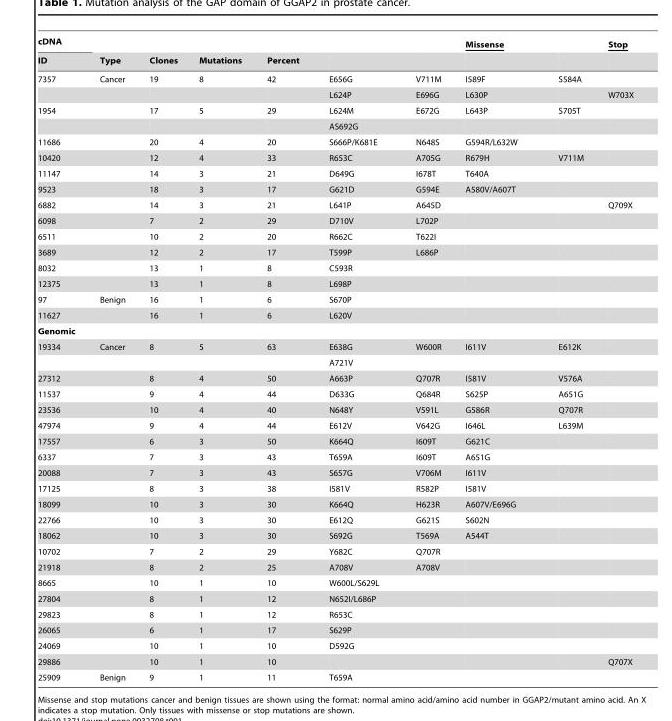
<table><thead><tr><td rowspan="2">cDNA ID</td><td rowspan="2">Type</td><td rowspan="2">Clones</td><td rowspan="2">Mutations</td><td rowspan="2">Percent</td><td rowspan="2"></td><td rowspan="2"></td><td rowspan="2">Missense</td><td rowspan="2"></td><td rowspan="2">Stop</td></tr><tr></tr></thead><tbody><tr><td rowspan="2">7357</td><td>Cancer</td><td>19</td><td>8</td><td>42</td><td>E656G</td><td>V711M</td><td>I589F</td><td>S584A</td><td></td></tr><tr><td></td><td></td><td></td><td></td><td>L624P</td><td>E696G</td><td>L630P</td><td></td><td>W703X</td></tr><tr><td rowspan="2">1954</td><td></td><td>17</td><td>5</td><td>29</td><td>L624M</td><td>E672G</td><td>L643P</td><td>S705T</td><td></td></tr><tr><td></td><td></td><td></td><td></td><td>AS692G</td><td></td><td></td><td></td><td></td></tr><tr><td>11686</td><td></td><td>20</td><td>4</td><td>20</td><td>S666P/K681E</td><td>N648S</td><td>G594R/L632W</td><td></td><td></td></tr><tr><td>10420</td><td></td><td>12</td><td>4</td><td>33</td><td>R653C</td><td>A705G</td><td>R679H</td><td>V711M</td><td></td></tr><tr><td>11147</td><td></td><td>14</td><td>3</td><td>21</td><td>D649G</td><td>I678T</td><td>T640A</td><td></td><td></td></tr><tr><td>9523</td><td></td><td>18</td><td>3</td><td>17</td><td>G621D</td><td>G594E</td><td>A580V/A607T</td><td></td><td></td></tr><tr><td>6882</td><td></td><td>14</td><td>3</td><td>21</td><td>L641P</td><td>A645D</td><td></td><td></td><td>Q709X</td></tr><tr><td>6098</td><td></td><td>7</td><td>2</td><td>29</td><td>D710V</td><td>L702P</td><td></td><td></td><td></td></tr><tr><td>6511</td><td></td><td>10</td><td>2</td><td>20</td><td>R662C</td><td>T622I</td><td></td><td></td><td></td></tr><tr><td>3689</td><td></td><td>12</td><td>2</td><td>17</td><td>T599P</td><td>L686P</td><td></td><td></td><td></td></tr><tr><td>8032</td><td></td><td>13</td><td>1</td><td>8</td><td>C593R</td><td></td><td></td><td></td><td></td></tr><tr><td>12375</td><td></td><td>13</td><td>1</td><td>8</td><td>L698P</td><td></td><td></td><td></td><td></td></tr><tr><td>97</td><td>Benign</td><td>16</td><td>1</td><td>6</td><td>S670P</td><td></td><td></td><td></td><td></td></tr><tr><td>11627</td><td></td><td>16</td><td>1</td><td>6</td><td>L620V</td><td></td><td></td><td></td><td></td></tr><tr><td colspan="10">Genomic</td></tr><tr><td rowspan="2">19334</td><td>Cancer</td><td>8</td><td>5</td><td>63</td><td>E638G</td><td>W600R</td><td>I611V</td><td>E612K</td><td></td></tr><tr><td></td><td></td><td></td><td></td><td>A721V</td><td></td><td></td><td></td><td></td></tr><tr><td>27312</td><td></td><td>8</td><td>4</td><td>50</td><td>A663P</td><td>Q707R</td><td>I581V</td><td>V576A</td><td></td></tr><tr><td>11537</td><td></td><td>9</td><td>4</td><td>44</td><td>D633G</td><td>Q684R</td><td>S625P</td><td>A651G</td><td></td></tr><tr><td>23536</td><td></td><td>10</td><td>4</td><td>40</td><td>N648Y</td><td>V591L</td><td>G586R</td><td>Q707R</td><td></td></tr><tr><td>47974</td><td></td><td>9</td><td>4</td><td>44</td><td>E612V</td><td>V642G</td><td>I646L</td><td>L639M</td><td></td></tr><tr><td>17557</td><td></td><td>6</td><td>3</td><td>50</td><td>K664Q</td><td>I609T</td><td>G621C</td><td></td><td></td></tr><tr><td>6337</td><td></td><td>7</td><td>3</td><td>43</td><td>T659A</td><td>I609T</td><td>A651G</td><td></td><td></td></tr><tr><td>20088</td><td></td><td>7</td><td>3</td><td>43</td><td>S657G</td><td>V706M</td><td>I611V</td><td></td><td></td></tr><tr><td>17125</td><td></td><td>8</td><td>3</td><td>38</td><td>I581V</td><td>R582P</td><td>I581V</td><td></td><td></td></tr><tr><td>18099</td><td></td><td>10</td><td>3</td><td>30</td><td>K664Q</td><td>H623R</td><td>A607V/E696G</td><td></td><td></td></tr><tr><td>22766</td><td></td><td>10</td><td>3</td><td>30</td><td>E612Q</td><td>G621S</td><td>S602N</td><td></td><td></td></tr><tr><td>18062</td><td></td><td>10</td><td>3</td><td>30</td><td>S692G</td><td>T569A</td><td>A544T</td><td></td><td></td></tr><tr><td>10702</td><td></td><td>7</td><td>2</td><td>29</td><td>Y682C</td><td>Q707R</td><td></td><td></td><td></td></tr><tr><td>21918</td><td></td><td>8</td><td>2</td><td>25</td><td>A708V</td><td>A708V</td><td></td><td></td><td></td></tr><tr><td>8665</td><td></td><td>10</td><td>1</td><td>10</td><td>W600L/S629L</td><td></td><td></td><td></td><td></td></tr><tr><td>27804</td><td></td><td>8</td><td>1</td><td>12</td><td>N652I/L686P</td><td></td><td></td><td></td><td></td></tr><tr><td>29823</td><td></td><td>8</td><td>1</td><td>12</td><td>R653C</td><td></td><td></td><td></td><td></td></tr><tr><td>26065</td><td></td><td>6</td><td>1</td><td>17</td><td>S629P</td><td></td><td></td><td></td><td></td></tr><tr><td>24069</td><td></td><td>10</td><td>1</td><td>10</td><td>D592G</td><td></td><td></td><td></td><td></td></tr><tr><td>29886</td><td></td><td>10</td><td>1</td><td>10</td><td></td><td></td><td></td><td></td><td>Q707X</td></tr><tr><td>25909</td><td>Benign</td><td>9</td><td>1</td><td>11</td><td>T659A</td><td></td><td></td><td></td><td></td></tr></tbody></table>